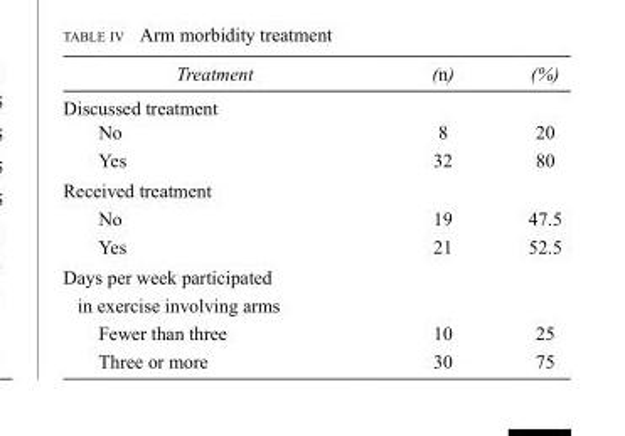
<table><thead><tr><td>Treatment</td><td>(n)</td><td>(%)</td></tr></thead><tbody><tr><td colspan="3">Discussed treatment</td></tr><tr><td>No</td><td>8</td><td>20</td></tr><tr><td>Yes</td><td>32</td><td>80</td></tr><tr><td colspan="3">Received treatment</td></tr><tr><td>No</td><td>19</td><td>47.5</td></tr><tr><td>Yes</td><td>21</td><td>52.5</td></tr><tr><td colspan="3">Days per week participated in exercise involving arms</td></tr><tr><td>Fewer than three</td><td>10</td><td>25</td></tr><tr><td>Three or more</td><td>30</td><td>75</td></tr></tbody></table>